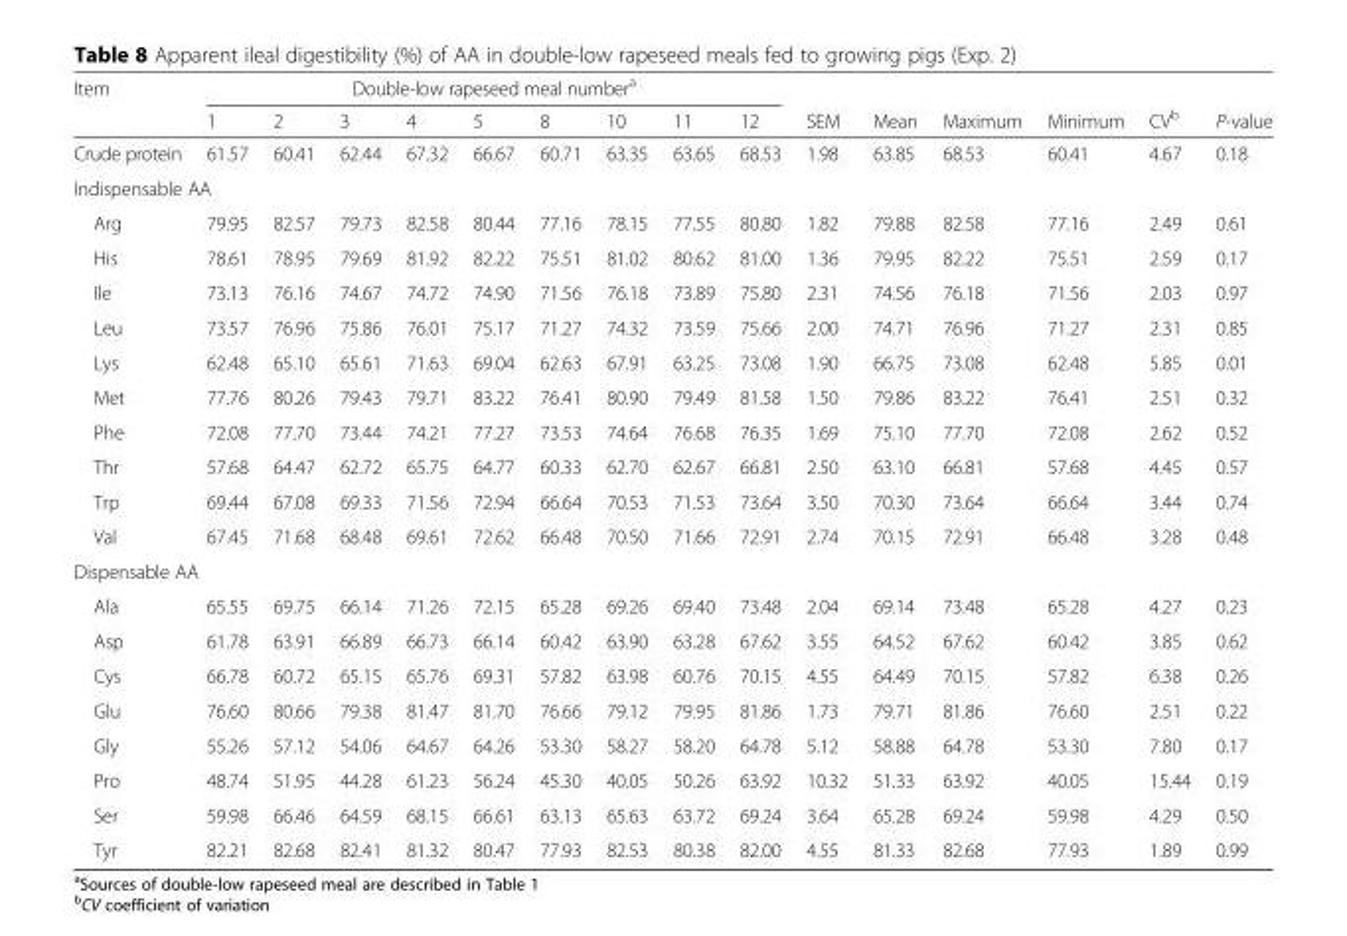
<table><thead><tr><td rowspan="2">Item</td><td colspan="9">Double-low rapeseed meal number<sup>a</sup></td><td rowspan="2">SEM</td><td rowspan="2">Mean</td><td rowspan="2">Maximum</td><td rowspan="2">Minimum</td><td rowspan="2">CV<sup>b</sup></td><td rowspan="2">P-value</td></tr><tr><td>1</td><td>2</td><td>3</td><td>4</td><td>5</td><td>8</td><td>10</td><td>11</td><td>12</td></tr></thead><tbody><tr><td>Crude protein</td><td>61.57</td><td>60.41</td><td>62.44</td><td>67.32</td><td>66.67</td><td>60.71</td><td>63.35</td><td>63.65</td><td>68.53</td><td>1.98</td><td>63.85</td><td>68.53</td><td>60.41</td><td>4.67</td><td>0.18</td></tr><tr><td colspan="16">Indispensable AA</td></tr><tr><td>Arg</td><td>79.95</td><td>82.57</td><td>79.73</td><td>82.58</td><td>80.44</td><td>77.16</td><td>78.15</td><td>77.55</td><td>80.80</td><td>1.82</td><td>79.88</td><td>82.58</td><td>77.16</td><td>2.49</td><td>0.61</td></tr><tr><td>His</td><td>78.61</td><td>78.95</td><td>79.69</td><td>81.92</td><td>82.22</td><td>75.51</td><td>81.02</td><td>80.62</td><td>81.00</td><td>1.36</td><td>79.95</td><td>82.22</td><td>75.51</td><td>2.59</td><td>0.17</td></tr><tr><td>Ile</td><td>73.13</td><td>76.16</td><td>74.67</td><td>74.72</td><td>74.90</td><td>71.56</td><td>76.18</td><td>73.89</td><td>75.80</td><td>2.31</td><td>74.56</td><td>76.18</td><td>71.56</td><td>2.03</td><td>0.97</td></tr><tr><td>Leu</td><td>73.57</td><td>76.96</td><td>75.86</td><td>76.01</td><td>75.17</td><td>71.27</td><td>74.32</td><td>73.59</td><td>75.66</td><td>2.00</td><td>74.71</td><td>76.96</td><td>71.27</td><td>2.31</td><td>0.85</td></tr><tr><td>Lys</td><td>62.48</td><td>65.10</td><td>65.61</td><td>71.63</td><td>69.04</td><td>62.63</td><td>67.91</td><td>63.25</td><td>73.08</td><td>1.90</td><td>66.75</td><td>73.08</td><td>62.48</td><td>5.85</td><td>0.01</td></tr><tr><td>Met</td><td>77.76</td><td>80.26</td><td>79.43</td><td>79.71</td><td>83.22</td><td>76.41</td><td>80.90</td><td>79.49</td><td>81.58</td><td>1.50</td><td>79.86</td><td>83.22</td><td>76.41</td><td>2.51</td><td>0.32</td></tr><tr><td>Phe</td><td>72.08</td><td>77.70</td><td>73.44</td><td>74.21</td><td>77.27</td><td>73.53</td><td>74.64</td><td>76.68</td><td>76.35</td><td>1.69</td><td>75.10</td><td>77.70</td><td>72.08</td><td>2.62</td><td>0.52</td></tr><tr><td>Thr</td><td>57.68</td><td>64.47</td><td>62.72</td><td>65.75</td><td>64.77</td><td>60.33</td><td>62.70</td><td>62.67</td><td>66.81</td><td>2.50</td><td>63.10</td><td>66.81</td><td>57.68</td><td>4.45</td><td>0.57</td></tr><tr><td>Trp</td><td>69.44</td><td>67.08</td><td>69.33</td><td>71.56</td><td>72.94</td><td>66.64</td><td>70.53</td><td>71.53</td><td>73.64</td><td>3.50</td><td>70.30</td><td>73.64</td><td>66.64</td><td>3.44</td><td>0.74</td></tr><tr><td>Val</td><td>67.45</td><td>71.68</td><td>68.48</td><td>69.61</td><td>72.62</td><td>66.48</td><td>70.50</td><td>71.66</td><td>72.91</td><td>2.74</td><td>70.15</td><td>72.91</td><td>66.48</td><td>3.28</td><td>0.48</td></tr><tr><td colspan="16">Dispensable AA</td></tr><tr><td>Ala</td><td>65.55</td><td>69.75</td><td>66.14</td><td>71.26</td><td>72.15</td><td>65.28</td><td>69.26</td><td>69.40</td><td>73.48</td><td>2.04</td><td>69.14</td><td>73.48</td><td>65.28</td><td>4.27</td><td>0.23</td></tr><tr><td>Asp</td><td>61.78</td><td>63.91</td><td>66.89</td><td>66.73</td><td>66.14</td><td>60.42</td><td>63.90</td><td>63.28</td><td>67.62</td><td>3.55</td><td>64.52</td><td>67.62</td><td>60.42</td><td>3.85</td><td>0.62</td></tr><tr><td>Cys</td><td>66.78</td><td>60.72</td><td>65.15</td><td>65.76</td><td>69.31</td><td>57.82</td><td>63.98</td><td>60.76</td><td>70.15</td><td>4.55</td><td>64.49</td><td>70.15</td><td>57.82</td><td>6.38</td><td>0.26</td></tr><tr><td>Glu</td><td>76.60</td><td>80.66</td><td>79.38</td><td>81.47</td><td>81.70</td><td>76.66</td><td>79.12</td><td>79.95</td><td>81.86</td><td>1.73</td><td>79.71</td><td>81.86</td><td>76.60</td><td>2.51</td><td>0.22</td></tr><tr><td>Gly</td><td>55.26</td><td>57.12</td><td>54.06</td><td>64.67</td><td>64.26</td><td>53.30</td><td>58.27</td><td>58.20</td><td>64.78</td><td>5.12</td><td>58.88</td><td>64.78</td><td>53.30</td><td>7.80</td><td>0.17</td></tr><tr><td>Pro</td><td>48.74</td><td>51.95</td><td>44.28</td><td>61.23</td><td>56.24</td><td>45.30</td><td>40.05</td><td>50.26</td><td>63.92</td><td>10.32</td><td>51.33</td><td>63.92</td><td>40.05</td><td>15.44</td><td>0.19</td></tr><tr><td>Ser</td><td>59.98</td><td>66.46</td><td>64.59</td><td>68.15</td><td>66.61</td><td>63.13</td><td>65.63</td><td>63.72</td><td>69.24</td><td>3.64</td><td>65.28</td><td>69.24</td><td>59.98</td><td>4.29</td><td>0.50</td></tr><tr><td>Tyr</td><td>82.21</td><td>82.68</td><td>82.41</td><td>81.32</td><td>80.47</td><td>77.93</td><td>82.53</td><td>80.38</td><td>82.00</td><td>4.55</td><td>81.33</td><td>82.68</td><td>77.93</td><td>1.89</td><td>0.99</td></tr></tbody></table>